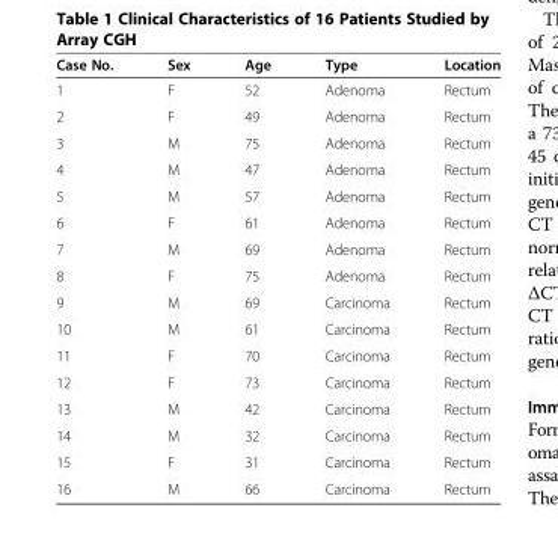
<table><thead><tr><td>Case No.</td><td>Sex</td><td>Age</td><td>Type</td><td>Location</td></tr></thead><tbody><tr><td>1</td><td>F</td><td>52</td><td>Adenoma</td><td>Rectum</td></tr><tr><td>2</td><td>F</td><td>49</td><td>Adenoma</td><td>Rectum</td></tr><tr><td>3</td><td>M</td><td>75</td><td>Adenoma</td><td>Rectum</td></tr><tr><td>4</td><td>M</td><td>47</td><td>Adenoma</td><td>Rectum</td></tr><tr><td>5</td><td>M</td><td>57</td><td>Adenoma</td><td>Rectum</td></tr><tr><td>6</td><td>F</td><td>61</td><td>Adenoma</td><td>Rectum</td></tr><tr><td>7</td><td>M</td><td>69</td><td>Adenoma</td><td>Rectum</td></tr><tr><td>8</td><td>F</td><td>75</td><td>Adenoma</td><td>Rectum</td></tr><tr><td>9</td><td>M</td><td>69</td><td>Carcinoma</td><td>Rectum</td></tr><tr><td>10</td><td>M</td><td>61</td><td>Carcinoma</td><td>Rectum</td></tr><tr><td>11</td><td>F</td><td>70</td><td>Carcinoma</td><td>Rectum</td></tr><tr><td>12</td><td>F</td><td>73</td><td>Carcinoma</td><td>Rectum</td></tr><tr><td>13</td><td>M</td><td>42</td><td>Carcinoma</td><td>Rectum</td></tr><tr><td>14</td><td>M</td><td>32</td><td>Carcinoma</td><td>Rectum</td></tr><tr><td>15</td><td>F</td><td>31</td><td>Carcinoma</td><td>Rectum</td></tr><tr><td>16</td><td>M</td><td>66</td><td>Carcinoma</td><td>Rectum</td></tr></tbody></table>